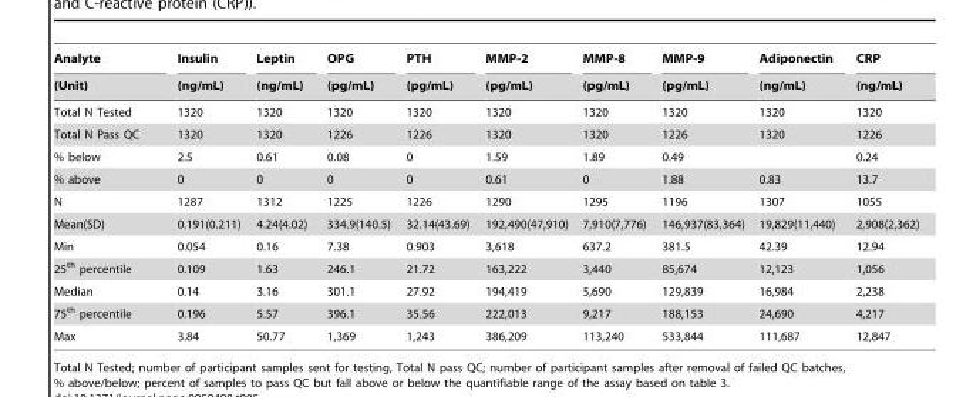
<table><thead><tr><td rowspan="2">Analyte (Unit)</td><td rowspan="2">Insulin (ng/mL)</td><td rowspan="2">Leptin (ng/mL)</td><td rowspan="2">OPG (pg/mL)</td><td rowspan="2">PTH (pg/mL)</td><td rowspan="2">MMP-2 (pg/mL)</td><td rowspan="2">MMP-8 (pg/mL)</td><td rowspan="2">MMP-9 (pg/mL)</td><td rowspan="2">Adiponectin (ng/mL)</td><td rowspan="2">CRP (ng/mL)</td></tr><tr></tr></thead><tbody><tr><td>Total N Tested</td><td>1320</td><td>1320</td><td>1320</td><td>1320</td><td>1320</td><td>1320</td><td>1320</td><td>1320</td><td>1320</td></tr><tr><td>Total N Pass QC</td><td>1320</td><td>1320</td><td>1226</td><td>1226</td><td>1320</td><td>1320</td><td>1226</td><td>1320</td><td>1226</td></tr><tr><td>% below</td><td>2.5</td><td>0.61</td><td>0.08</td><td>0</td><td>1.59</td><td>1.89</td><td>0.49</td><td></td><td>0.24</td></tr><tr><td>% above</td><td>0</td><td>0</td><td>0</td><td>0</td><td>0.61</td><td>0</td><td>1.88</td><td>0.83</td><td>13.7</td></tr><tr><td>N</td><td>1287</td><td>1312</td><td>1225</td><td>1226</td><td>1290</td><td>1295</td><td>1196</td><td>1307</td><td>1055</td></tr><tr><td>Mean(SD)</td><td>0.191(0.211)</td><td>4.24(4.02)</td><td>334.9(140.5)</td><td>32.14(43.69)</td><td>192,490(47,910)</td><td>7,910(7,776)</td><td>146,937(83,364)</td><td>19,829(11,440)</td><td>2,908(2,362)</td></tr><tr><td>Min</td><td>0.054</td><td>0.16</td><td>7.38</td><td>0.903</td><td>3,618</td><td>637.2</td><td>381.5</td><td>42.39</td><td>12.94</td></tr><tr><td>25<sup>th</sup> percentile</td><td>0.109</td><td>1.63</td><td>246.1</td><td>21.72</td><td>163,222</td><td>3,440</td><td>85,674</td><td>12,123</td><td>1,056</td></tr><tr><td>Median</td><td>0.14</td><td>3.16</td><td>301.1</td><td>27.92</td><td>194,419</td><td>5,690</td><td>129,839</td><td>16,984</td><td>2,238</td></tr><tr><td>75<sup>th</sup> percentile</td><td>0.196</td><td>5.57</td><td>396.1</td><td>35.56</td><td>222,013</td><td>9,217</td><td>188,153</td><td>24,690</td><td>4,217</td></tr><tr><td>Max</td><td>3.84</td><td>50.77</td><td>1,369</td><td>1,243</td><td>386,209</td><td>113,240</td><td>533,844</td><td>111,687</td><td>12,847</td></tr></tbody></table>